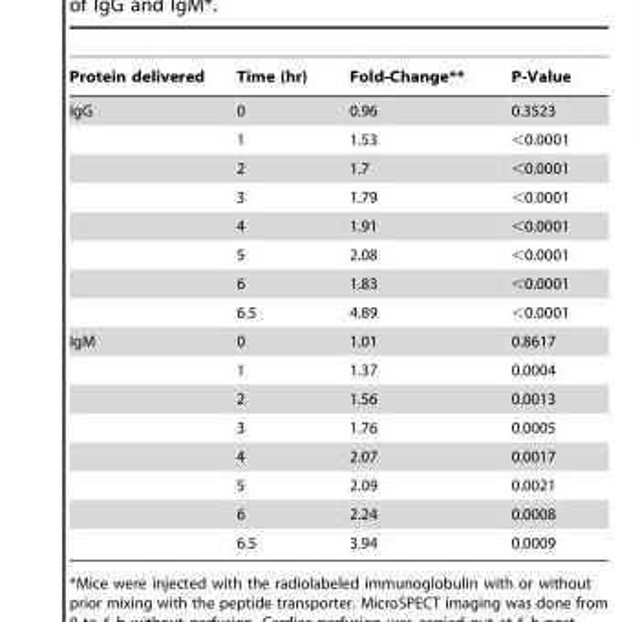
<table><thead><tr><td>Protein delivered</td><td>Time (hr)</td><td>Fold-Change**</td><td>P-Value</td></tr></thead><tbody><tr><td rowspan="8">IgG</td><td>0</td><td>0.96</td><td>0.3523</td></tr><tr><td>1</td><td>1.53</td><td>&lt;0.0001</td></tr><tr><td>2</td><td>1.7</td><td>&lt;0.0001</td></tr><tr><td>3</td><td>1.79</td><td>&lt;0.0001</td></tr><tr><td>4</td><td>1.91</td><td>&lt;0.0001</td></tr><tr><td>5</td><td>2.08</td><td>&lt;0.0001</td></tr><tr><td>6</td><td>1.83</td><td>&lt;0.0001</td></tr><tr><td>6.5</td><td>4.89</td><td>&lt;0.0001</td></tr><tr><td rowspan="8">IgM</td><td>0</td><td>1.01</td><td>0.8617</td></tr><tr><td>1</td><td>1.37</td><td>0.0004</td></tr><tr><td>2</td><td>1.56</td><td>0.0013</td></tr><tr><td>3</td><td>1.76</td><td>0.0005</td></tr><tr><td>4</td><td>2.07</td><td>0.0017</td></tr><tr><td>5</td><td>2.09</td><td>0.0021</td></tr><tr><td>6</td><td>2.24</td><td>0.0008</td></tr><tr><td>6.5</td><td>3.94</td><td>0.0009</td></tr></tbody></table>